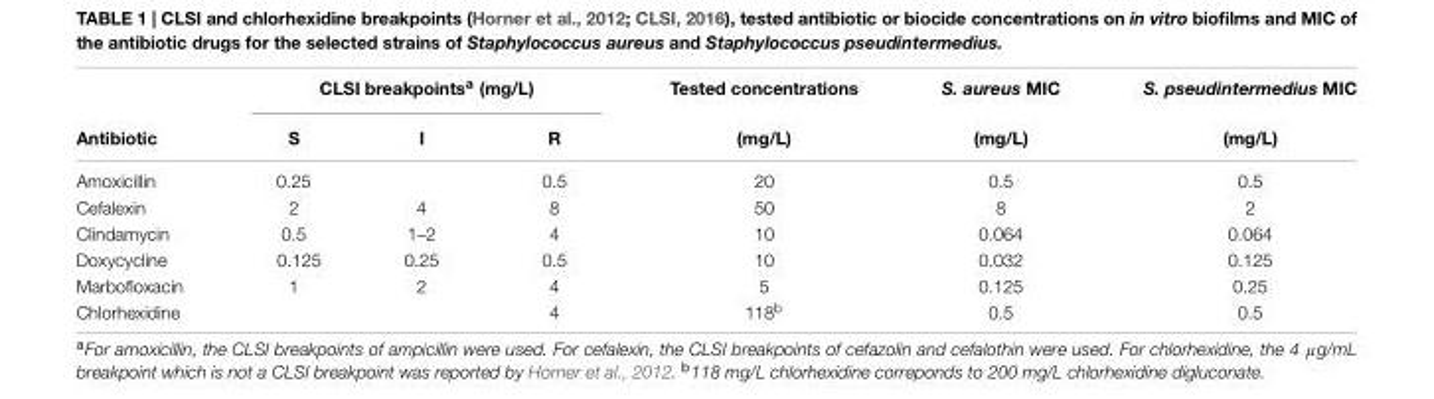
<table><thead><tr><td rowspan="2">Antibiotic</td><td colspan="3">CLSI breakpoints<sup>a</sup> (mg/L)</td><td rowspan="2">Tested concentrations (mg/L)</td><td rowspan="2">S. aureus MIC (mg/L)</td><td rowspan="2">S. pseudintermedius MIC (mg/L)</td></tr><tr><td>S</td><td>I</td><td>R</td></tr></thead><tbody><tr><td>Amoxicillin</td><td>0.25</td><td></td><td>0.5</td><td>20</td><td>0.5</td><td>0.5</td></tr><tr><td>Cefalexin</td><td>2</td><td>4</td><td>8</td><td>50</td><td>8</td><td>2</td></tr><tr><td>Clindamycin</td><td>0.5</td><td>1–2</td><td>4</td><td>10</td><td>0.064</td><td>0.064</td></tr><tr><td>Doxycycline</td><td>0.125</td><td>0.25</td><td>0.5</td><td>10</td><td>0.032</td><td>0.125</td></tr><tr><td>Marbofloxacin</td><td>1</td><td>2</td><td>4</td><td>5</td><td>0.125</td><td>0.25</td></tr><tr><td>Chlorhexidine</td><td></td><td></td><td>4</td><td>118<sup>b</sup></td><td>0.5</td><td>0.5</td></tr></tbody></table>